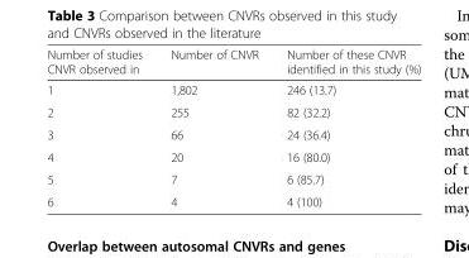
<table><thead><tr><td>Number of studies CNVR observed in</td><td>Number of CNVR</td><td>Number of these CNVR identified in this study (%)</td></tr></thead><tbody><tr><td>1</td><td>1,802</td><td>246 (13.7)</td></tr><tr><td>2</td><td>255</td><td>82 (32.2)</td></tr><tr><td>3</td><td>66</td><td>24 (36.4)</td></tr><tr><td>4</td><td>20</td><td>16 (80.0)</td></tr><tr><td>5</td><td>7</td><td>6 (85.7)</td></tr><tr><td>6</td><td>4</td><td>4 (100)</td></tr></tbody></table>